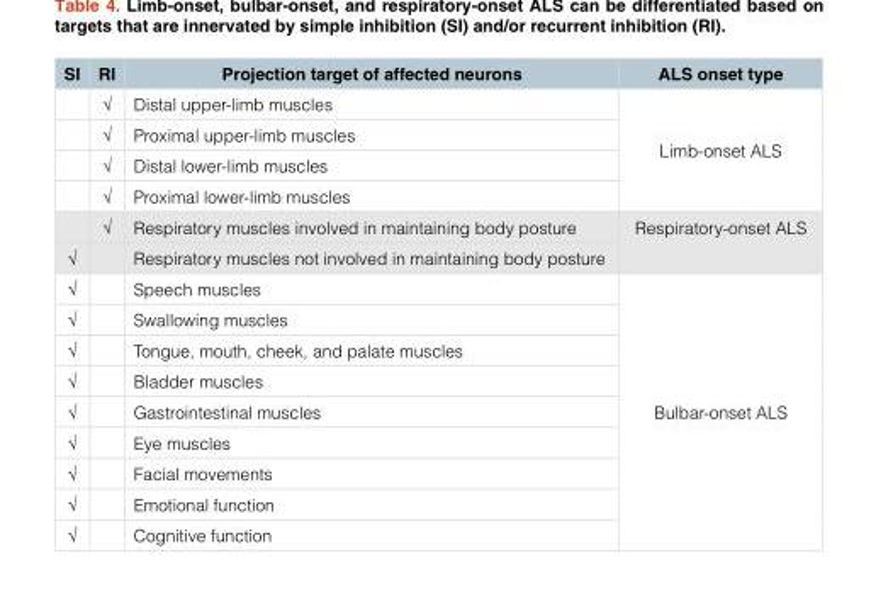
<table><thead><tr><td>SI</td><td>RI</td><td>Projection target of affected neurons</td><td>ALS onset type</td></tr></thead><tbody><tr><td></td><td>√</td><td>Distal upper-limb muscles</td><td rowspan="4">Limb-onset ALS</td></tr><tr><td></td><td>√</td><td>Proximal upper-limb muscles</td></tr><tr><td></td><td>√</td><td>Distal lower-limb muscles</td></tr><tr><td></td><td>√</td><td>Proximal lower-limb muscles</td></tr><tr><td></td><td>√</td><td>Respiratory muscles involved in maintaining body posture</td><td rowspan="2">Respiratory-onset ALS</td></tr><tr><td>√</td><td></td><td>Respiratory muscles not involved in maintaining body posture</td></tr><tr><td>√</td><td></td><td>Speech muscles</td><td rowspan="9">Bulbar-onset ALS</td></tr><tr><td>√</td><td></td><td>Swallowing muscles</td></tr><tr><td>√</td><td></td><td>Tongue, mouth, cheek, and palate muscles</td></tr><tr><td>√</td><td></td><td>Bladder muscles</td></tr><tr><td>√</td><td></td><td>Gastrointestinal muscles</td></tr><tr><td>√</td><td></td><td>Eye muscles</td></tr><tr><td>√</td><td></td><td>Facial movements</td></tr><tr><td>√</td><td></td><td>Emotional function</td></tr><tr><td>√</td><td></td><td>Cognitive function</td></tr></tbody></table>